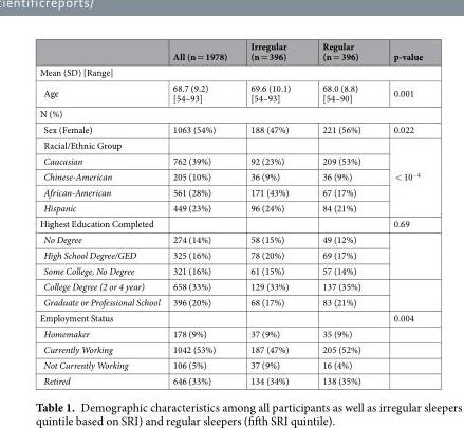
<table><thead><tr><td></td><td>All (n = 1978)</td><td>Irregular (n = 396)</td><td>Regular (n = 396)</td><td>p-value</td></tr></thead><tbody><tr><td colspan="5">Mean (SD) [Range]</td></tr><tr><td>Age</td><td>68.7 (9.2) [54–93]</td><td>69.6 (10.1) [54–93]</td><td>68.0 (8.8) [54–90]</td><td>0.001</td></tr><tr><td colspan="5">N (%)</td></tr><tr><td>Sex (Female)</td><td>1063 (54%)</td><td>188 (47%)</td><td>221 (56%)</td><td>0.022</td></tr><tr><td colspan="4">Racial/Ethnic Group</td><td rowspan="5">&lt; 10<sup>−4</sup></td></tr><tr><td>Caucasian</td><td>762 (39%)</td><td>92 (23%)</td><td>209 (53%)</td></tr><tr><td>Chinese-American</td><td>205 (10%)</td><td>36 (9%)</td><td>36 (9%)</td></tr><tr><td>African-American</td><td>561 (28%)</td><td>171 (43%)</td><td>67 (17%)</td></tr><tr><td>Hispanic</td><td>449 (23%)</td><td>96 (24%)</td><td>84 (21%)</td></tr><tr><td>Highest Education Completed</td><td></td><td></td><td></td><td>0.69</td></tr><tr><td>No Degree</td><td>274 (14%)</td><td>58 (15%)</td><td>49 (12%)</td><td rowspan="3"></td></tr><tr><td>High School Degree/GED</td><td>325 (16%)</td><td>78 (20%)</td><td>69 (17%)</td></tr><tr><td>Some College, No Degree</td><td>321 (16%)</td><td>61 (15%)</td><td>57 (14%)</td></tr><tr><td>College Degree (2 or 4 year)</td><td>658 (33%)</td><td>129 (33%)</td><td>137 (35%)</td><td rowspan="2"></td></tr><tr><td>Graduate or Professional School</td><td>396 (20%)</td><td>68 (17%)</td><td>83 (21%)</td></tr><tr><td>Employment Status</td><td></td><td></td><td></td><td>0.004</td></tr><tr><td>Homemaker</td><td>178 (9%)</td><td>37 (9%)</td><td>35 (9%)</td><td></td></tr><tr><td>Currently Working</td><td>1042 (53%)</td><td>187 (47%)</td><td>205 (52%)</td><td></td></tr><tr><td>Not Currently Working</td><td>106 (5%)</td><td>37 (9%)</td><td>16 (4%)</td><td></td></tr><tr><td>Retired</td><td>646 (33%)</td><td>134 (34%)</td><td>138 (35%)</td><td></td></tr></tbody></table>